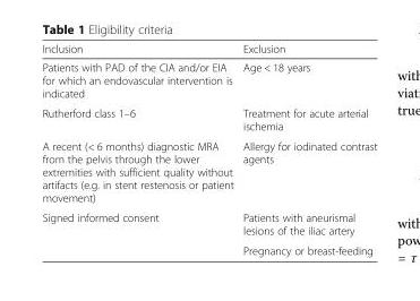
<table><thead><tr><td>Inclusion</td><td>Exclusion</td></tr></thead><tbody><tr><td>Patients with PAD of the CIA and/or EIA for which an endovascular intervention is indicated</td><td>Age &lt; 18 years</td></tr><tr><td>Rutherford class 1–6</td><td>Treatment for acute arterial ischemia</td></tr><tr><td>A recent (&lt; 6 months) diagnostic MRA from the pelvis through the lower extremities with sufficient quality without artifacts (e.g. in stent restenosis or patient movement)</td><td>Allergy for iodinated contrast agents</td></tr><tr><td rowspan="2">Signed informed consent</td><td>Patients with aneurismal lesions of the iliac artery</td></tr><tr><td>Pregnancy or breast-feeding</td></tr></tbody></table>